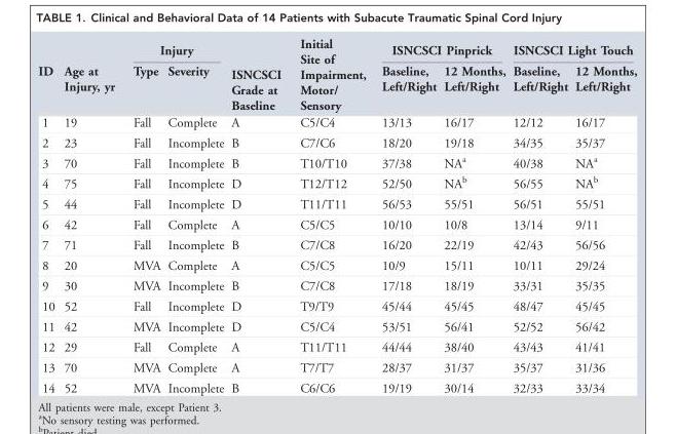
<table><thead><tr><td rowspan="2">ID</td><td rowspan="2">Age at Injury, yr</td><td colspan="2">Injury</td><td rowspan="2">ISNCSCI Grade at Baseline</td><td rowspan="2">Initial Site of Impairment, Motor/ Sensory</td><td colspan="2">ISNCSCI Pinprick</td><td colspan="2">ISNCSCI Light Touch</td></tr><tr><td>Type</td><td>Severity</td><td>Baseline, Left/Right</td><td>12 Months, Left/Right</td><td>Baseline, Left/Right</td><td>12 Months, Left/Right</td></tr></thead><tbody><tr><td>1</td><td>19</td><td>Fall</td><td>Complete</td><td>A</td><td>C5/C4</td><td>13/13</td><td>16/17</td><td>12/12</td><td>16/17</td></tr><tr><td>2</td><td>23</td><td>Fall</td><td>Incomplete</td><td>B</td><td>C7/C6</td><td>18/20</td><td>19/18</td><td>34/35</td><td>35/37</td></tr><tr><td>3</td><td>70</td><td>Fall</td><td>Incomplete</td><td>B</td><td>T10/T10</td><td>37/38</td><td>NA<sup>a</sup></td><td>40/38</td><td>NA<sup>a</sup></td></tr><tr><td>4</td><td>75</td><td>Fall</td><td>Incomplete</td><td>D</td><td>T12/T12</td><td>52/50</td><td>NA<sup>b</sup></td><td>56/55</td><td>NA<sup>b</sup></td></tr><tr><td>5</td><td>44</td><td>Fall</td><td>Incomplete</td><td>D</td><td>T11/T11</td><td>56/53</td><td>55/51</td><td>56/51</td><td>55/51</td></tr><tr><td>6</td><td>42</td><td>Fall</td><td>Complete</td><td>A</td><td>C5/C5</td><td>10/10</td><td>10/8</td><td>13/14</td><td>9/11</td></tr><tr><td>7</td><td>71</td><td>Fall</td><td>Incomplete</td><td>B</td><td>C7/C8</td><td>16/20</td><td>22/19</td><td>42/43</td><td>56/56</td></tr><tr><td>8</td><td>20</td><td>MVA</td><td>Complete</td><td>A</td><td>C5/C5</td><td>10/9</td><td>15/11</td><td>10/11</td><td>29/24</td></tr><tr><td>9</td><td>30</td><td>MVA</td><td>Incomplete</td><td>B</td><td>C7/C8</td><td>17/18</td><td>18/19</td><td>33/31</td><td>35/35</td></tr><tr><td>10</td><td>52</td><td>Fall</td><td>Incomplete</td><td>D</td><td>T9/T9</td><td>45/44</td><td>45/45</td><td>48/47</td><td>45/45</td></tr><tr><td>11</td><td>42</td><td>MVA</td><td>Incomplete</td><td>D</td><td>C5/C4</td><td>53/51</td><td>56/41</td><td>52/52</td><td>56/42</td></tr><tr><td>12</td><td>29</td><td>Fall</td><td>Complete</td><td>A</td><td>T11/T11</td><td>44/44</td><td>38/40</td><td>43/43</td><td>41/41</td></tr><tr><td>13</td><td>70</td><td>MVA</td><td>Complete</td><td>A</td><td>T7/T7</td><td>28/37</td><td>31/37</td><td>35/37</td><td>31/36</td></tr><tr><td>14</td><td>52</td><td>MVA</td><td>Incomplete</td><td>B</td><td>C6/C6</td><td>19/19</td><td>30/14</td><td>32/33</td><td>33/34</td></tr></tbody></table>